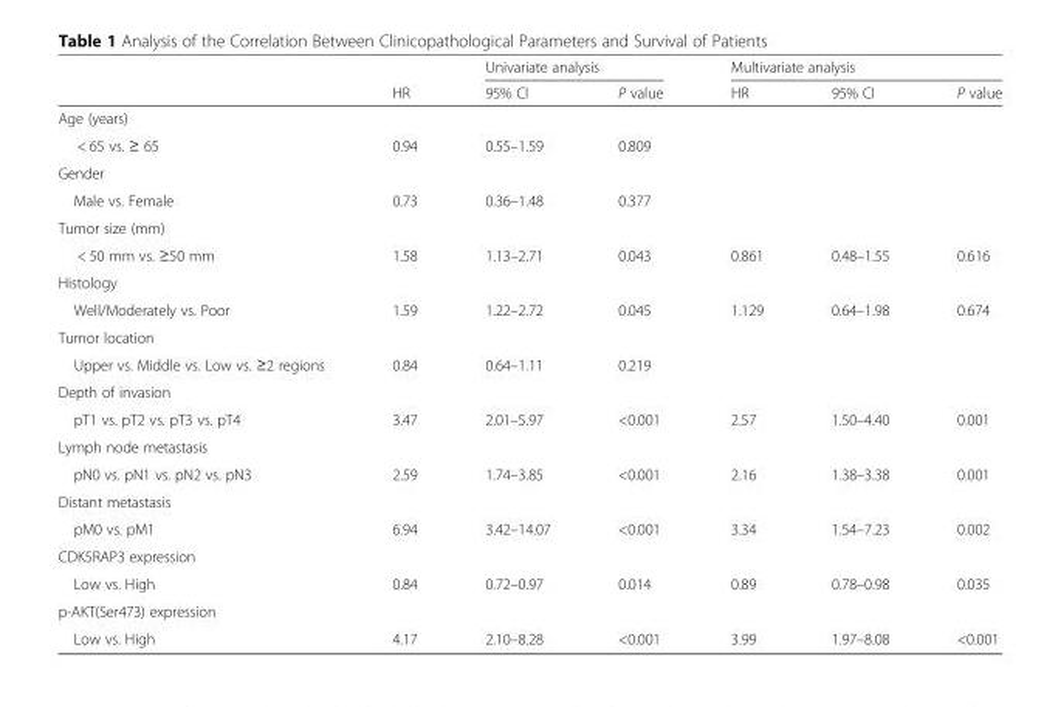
<table><thead><tr><td rowspan="2"></td><td rowspan="2">HR</td><td colspan="2">Univariate analysis</td><td colspan="3">Multivariate analysis</td></tr><tr><td>95% CI</td><td>P value</td><td>HR</td><td>95% CI</td><td>P value</td></tr></thead><tbody><tr><td colspan="7">Age (years)</td></tr><tr><td>&lt; 65 vs. ≥ 65</td><td>0.94</td><td>0.55–1.59</td><td>0.809</td><td></td><td></td><td></td></tr><tr><td colspan="7">Gender</td></tr><tr><td>Male vs. Female</td><td>0.73</td><td>0.36–1.48</td><td>0.377</td><td></td><td></td><td></td></tr><tr><td colspan="7">Tumor size (mm)</td></tr><tr><td>&lt; 50 mm vs. ≥50 mm</td><td>1.58</td><td>1.13–2.71</td><td>0.043</td><td>0.861</td><td>0.48–1.55</td><td>0.616</td></tr><tr><td colspan="7">Histology</td></tr><tr><td>Well/Moderately vs. Poor</td><td>1.59</td><td>1.22–2.72</td><td>0.045</td><td>1.129</td><td>0.64–1.98</td><td>0.674</td></tr><tr><td colspan="7">Tumor location</td></tr><tr><td>Upper vs. Middle vs. Low vs. ≥2 regions</td><td>0.84</td><td>0.64–1.11</td><td>0.219</td><td></td><td></td><td></td></tr><tr><td colspan="7">Depth of invasion</td></tr><tr><td>pT1 vs. pT2 vs. pT3 vs. pT4</td><td>3.47</td><td>2.01–5.97</td><td>&lt;0.001</td><td>2.57</td><td>1.50–4.40</td><td>0.001</td></tr><tr><td colspan="7">Lymph node metastasis</td></tr><tr><td>pN0 vs. pN1 vs. pN2 vs. pN3</td><td>2.59</td><td>1.74–3.85</td><td>&lt;0.001</td><td>2.16</td><td>1.38–3.38</td><td>0.001</td></tr><tr><td colspan="7">Distant metastasis</td></tr><tr><td>pM0 vs. pM1</td><td>6.94</td><td>3.42–14.07</td><td>&lt;0.001</td><td>3.34</td><td>1.54–7.23</td><td>0.002</td></tr><tr><td colspan="7">CDK5RAP3 expression</td></tr><tr><td>Low vs. High</td><td>0.84</td><td>0.72–0.97</td><td>0.014</td><td>0.89</td><td>0.78–0.98</td><td>0.035</td></tr><tr><td colspan="7">p-AKT(Ser473) expression</td></tr><tr><td>Low vs. High</td><td>4.17</td><td>2.10–8.28</td><td>&lt;0.001</td><td>3.99</td><td>1.97–8.08</td><td>&lt;0.001</td></tr></tbody></table>